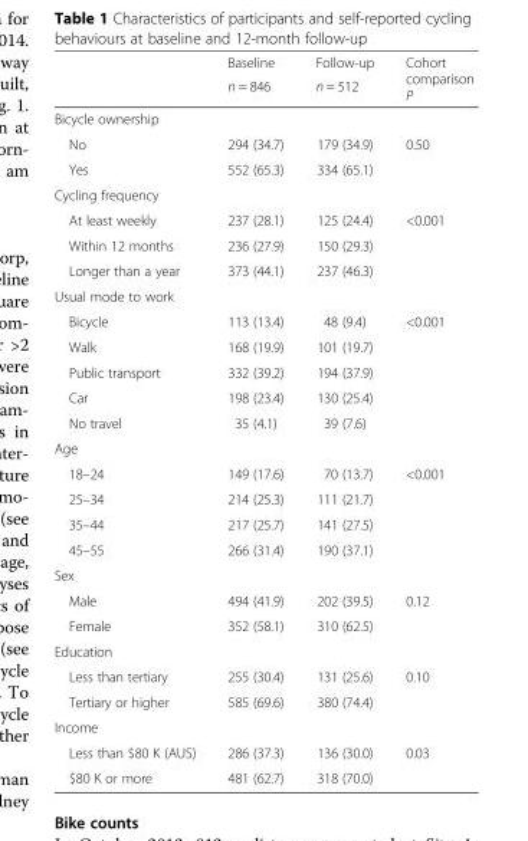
<table><thead><tr><td rowspan="2"></td><td rowspan="2">Baseline n = 846</td><td rowspan="2">Follow-up n = 512</td><td rowspan="2">Cohort comparison P</td></tr><tr></tr></thead><tbody><tr><td colspan="4">Bicycle ownership</td></tr><tr><td>No</td><td>294 (34.7)</td><td>179 (34.9)</td><td>0.50</td></tr><tr><td>Yes</td><td>552 (65.3)</td><td>334 (65.1)</td><td></td></tr><tr><td colspan="4">Cycling frequency</td></tr><tr><td>At least weekly</td><td>237 (28.1)</td><td>125 (24.4)</td><td>&lt;0.001</td></tr><tr><td>Within 12 months</td><td>236 (27.9)</td><td>150 (29.3)</td><td></td></tr><tr><td>Longer than a year</td><td>373 (44.1)</td><td>237 (46.3)</td><td></td></tr><tr><td colspan="4">Usual mode to work</td></tr><tr><td>Bicycle</td><td>113 (13.4)</td><td>48 (9.4)</td><td>&lt;0.001</td></tr><tr><td>Walk</td><td>168 (19.9)</td><td>101 (19.7)</td><td></td></tr><tr><td>Public transport</td><td>332 (39.2)</td><td>194 (37.9)</td><td></td></tr><tr><td>Car</td><td>198 (23.4)</td><td>130 (25.4)</td><td></td></tr><tr><td>No travel</td><td>35 (4.1)</td><td>39 (7.6)</td><td></td></tr><tr><td colspan="4">Age</td></tr><tr><td>18–24</td><td>149 (17.6)</td><td>70 (13.7)</td><td>&lt;0.001</td></tr><tr><td>25–34</td><td>214 (25.3)</td><td>111 (21.7)</td><td></td></tr><tr><td>35–44</td><td>217 (25.7)</td><td>141 (27.5)</td><td></td></tr><tr><td>45–55</td><td>266 (31.4)</td><td>190 (37.1)</td><td></td></tr><tr><td colspan="4">Sex</td></tr><tr><td>Male</td><td>494 (41.9)</td><td>202 (39.5)</td><td>0.12</td></tr><tr><td>Female</td><td>352 (58.1)</td><td>310 (62.5)</td><td></td></tr><tr><td colspan="4">Education</td></tr><tr><td>Less than tertiary</td><td>255 (30.4)</td><td>131 (25.6)</td><td>0.10</td></tr><tr><td>Tertiary or higher</td><td>585 (69.6)</td><td>380 (74.4)</td><td></td></tr><tr><td colspan="4">Income</td></tr><tr><td>Less than $80 K (AUS)</td><td>286 (37.3)</td><td>136 (30.0)</td><td>0.03</td></tr><tr><td>$80 K or more</td><td>481 (62.7)</td><td>318 (70.0)</td><td></td></tr></tbody></table>